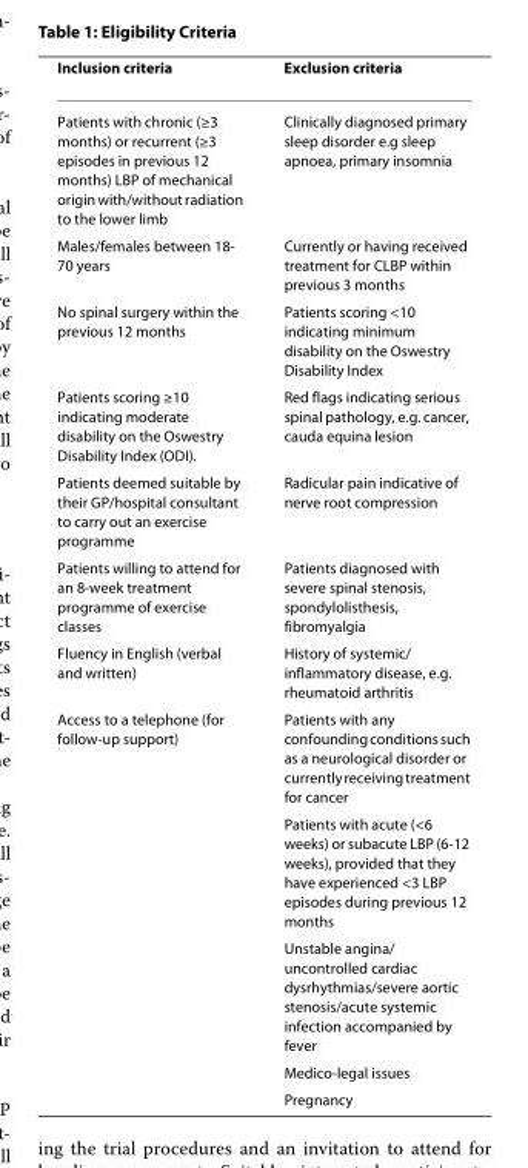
<table><thead><tr><td>Inclusion criteria</td><td>Exclusion criteria</td></tr></thead><tbody><tr><td>Patients with chronic (≥3 months) or recurrent (≥3 episodes in previous 12 months) LBP of mechanical origin with/without radiation to the lower limb</td><td>Clinically diagnosed primary sleep disorder e.g sleep apnoea, primary insomnia</td></tr><tr><td>Males/females between 18- 70 years</td><td>Currently or having received treatment for CLBP within previous 3 months</td></tr><tr><td>No spinal surgery within the previous 12 months</td><td>Patients scoring &lt;10 indicating minimum disability on the Oswestry Disability Index</td></tr><tr><td>Patients scoring ≥10 indicating moderate disability on the Oswestry Disability Index (ODI).</td><td>Red flags indicating serious spinal pathology, e.g. cancer, cauda equina lesion</td></tr><tr><td>Patients deemed suitable by their GP/hospital consultant to carry out an exercise programme</td><td>Radicular pain indicative of nerve root compression</td></tr><tr><td>Patients willing to attend for an 8-week treatment programme of exercise classes</td><td>Patients diagnosed with severe spinal stenosis, spondylolisthesis, fibromyalgia</td></tr><tr><td>Fluency in English (verbal and written)</td><td>History of systemic/ inflammatory disease, e.g. rheumatoid arthritis</td></tr><tr><td rowspan="5">Access to a telephone (for follow-up support)</td><td>Patients with any confounding conditions such as a neurological disorder or currently receiving treatment for cancer</td></tr><tr><td>Patients with acute (&lt;6 weeks) or subacute LBP (6-12 weeks), provided that they have experienced &lt;3 LBP episodes during previous 12 months</td></tr><tr><td>Unstable angina/ uncontrolled cardiac dysrhythmias/severe aortic stenosis/acute systemic infection accompanied by fever</td></tr><tr><td>Medico-legal issues</td></tr><tr><td>Pregnancy</td></tr></tbody></table>